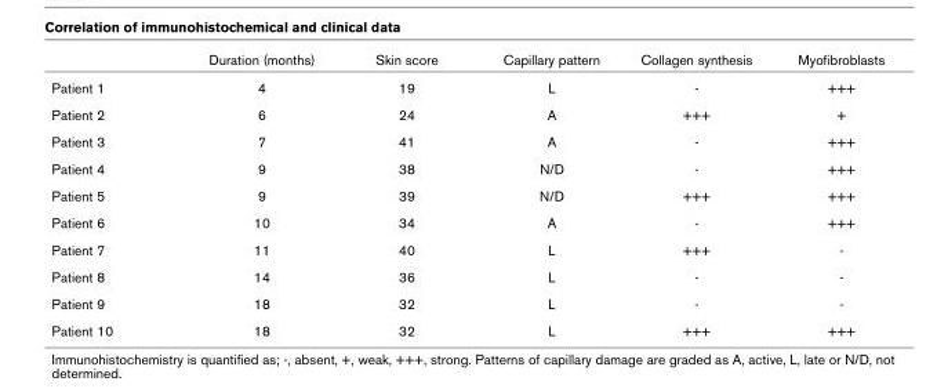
<table><thead><tr><td></td><td>Duration (months)</td><td>Skin score</td><td>Capillary pattern</td><td>Collagen synthesis</td><td>Myofibroblasts</td></tr></thead><tbody><tr><td>Patient 1</td><td>4</td><td>19</td><td>L</td><td>-</td><td>+++</td></tr><tr><td>Patient 2</td><td>6</td><td>24</td><td>A</td><td>+++</td><td>+</td></tr><tr><td>Patient 3</td><td>7</td><td>41</td><td>A</td><td>-</td><td>+++</td></tr><tr><td>Patient 4</td><td>9</td><td>38</td><td>N/D</td><td>-</td><td>+++</td></tr><tr><td>Patient 5</td><td>9</td><td>39</td><td>N/D</td><td>+++</td><td>+++</td></tr><tr><td>Patient 6</td><td>10</td><td>34</td><td>A</td><td>-</td><td>+++</td></tr><tr><td>Patient 7</td><td>11</td><td>40</td><td>L</td><td>+++</td><td>-</td></tr><tr><td>Patient 8</td><td>14</td><td>36</td><td>L</td><td>-</td><td>-</td></tr><tr><td>Patient 9</td><td>18</td><td>32</td><td>L</td><td>-</td><td>-</td></tr><tr><td>Patient 10</td><td>18</td><td>32</td><td>L</td><td>+++</td><td>+++</td></tr></tbody></table>